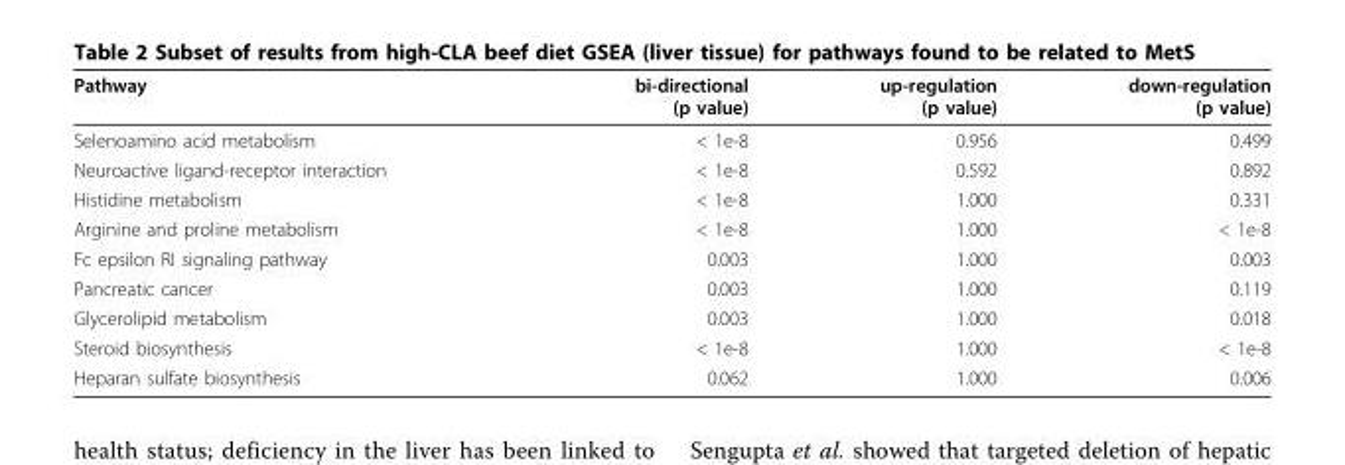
<table><thead><tr><td>Pathway</td><td>bi-directional (p value)</td><td>up-regulation (p value)</td><td>down-regulation (p value)</td></tr></thead><tbody><tr><td>Selenoamino acid metabolism</td><td>&lt; 1e-8</td><td>0.956</td><td>0.499</td></tr><tr><td>Neuroactive ligand-receptor interaction</td><td>&lt; 1e-8</td><td>0.592</td><td>0.892</td></tr><tr><td>Histidine metabolism</td><td>&lt; 1e-8</td><td>1.000</td><td>0.331</td></tr><tr><td>Arginine and proline metabolism</td><td>&lt; 1e-8</td><td>1.000</td><td>&lt; 1e-8</td></tr><tr><td>Fc epsilon RI signaling pathway</td><td>0.003</td><td>1.000</td><td>0.003</td></tr><tr><td>Pancreatic cancer</td><td>0.003</td><td>1.000</td><td>0.119</td></tr><tr><td>Glycerolipid metabolism</td><td>0.003</td><td>1.000</td><td>0.018</td></tr><tr><td>Steroid biosynthesis</td><td>&lt; 1e-8</td><td>1.000</td><td>&lt; 1e-8</td></tr><tr><td>Heparan sulfate biosynthesis</td><td>0.062</td><td>1.000</td><td>0.006</td></tr></tbody></table>